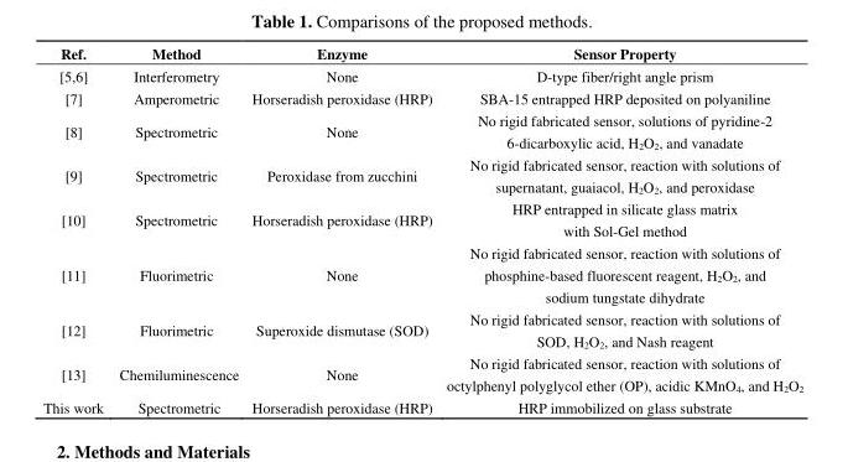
<table><thead><tr><td>Ref.</td><td>Method</td><td>Enzyme</td><td>Sensor Property</td></tr></thead><tbody><tr><td>[5,6]</td><td>Interferometry</td><td>None</td><td>D-type fiber/right angle prism</td></tr><tr><td>[7]</td><td>Amperometric</td><td>Horseradish peroxidase (HRP)</td><td>SBA-15 entrapped HRP deposited on polyaniline</td></tr><tr><td>[8]</td><td>Spectrometric</td><td>None</td><td>No rigid fabricated sensor, solutions of pyridine-2 6-dicarboxylic acid, H<sub>2</sub>O<sub>2</sub>, and vanadate</td></tr><tr><td>[9]</td><td>Spectrometric</td><td>Peroxidase from zucchini</td><td>No rigid fabricated sensor, reaction with solutions of supernatant, guaiacol, H<sub>2</sub>O<sub>2</sub>, and peroxidase</td></tr><tr><td>[10]</td><td>Spectrometric</td><td>Horseradish peroxidase (HRP)</td><td>HRP entrapped in silicate glass matrix with Sol-Gel method</td></tr><tr><td>[11]</td><td>Fluorimetric</td><td>None</td><td>No rigid fabricated sensor, reaction with solutions of phosphine-based fluorescent reagent, H<sub>2</sub>O<sub>2</sub>, and sodium tungstate dihydrate</td></tr><tr><td>[12]</td><td>Fluorimetric</td><td>Superoxide dismutase (SOD)</td><td>No rigid fabricated sensor, reaction with solutions of SOD, H<sub>2</sub>O<sub>2</sub>, and Nash reagent</td></tr><tr><td>[13]</td><td>Chemiluminescence</td><td>None</td><td>No rigid fabricated sensor, reaction with solutions of octylphenyl polyglycol ether (OP), acidic KMnO<sub>4</sub>, and H<sub>2</sub>O<sub>2</sub></td></tr><tr><td>This work</td><td>Spectrometric</td><td>Horseradish peroxidase (HRP)</td><td>HRP immobilized on glass substrate</td></tr></tbody></table>